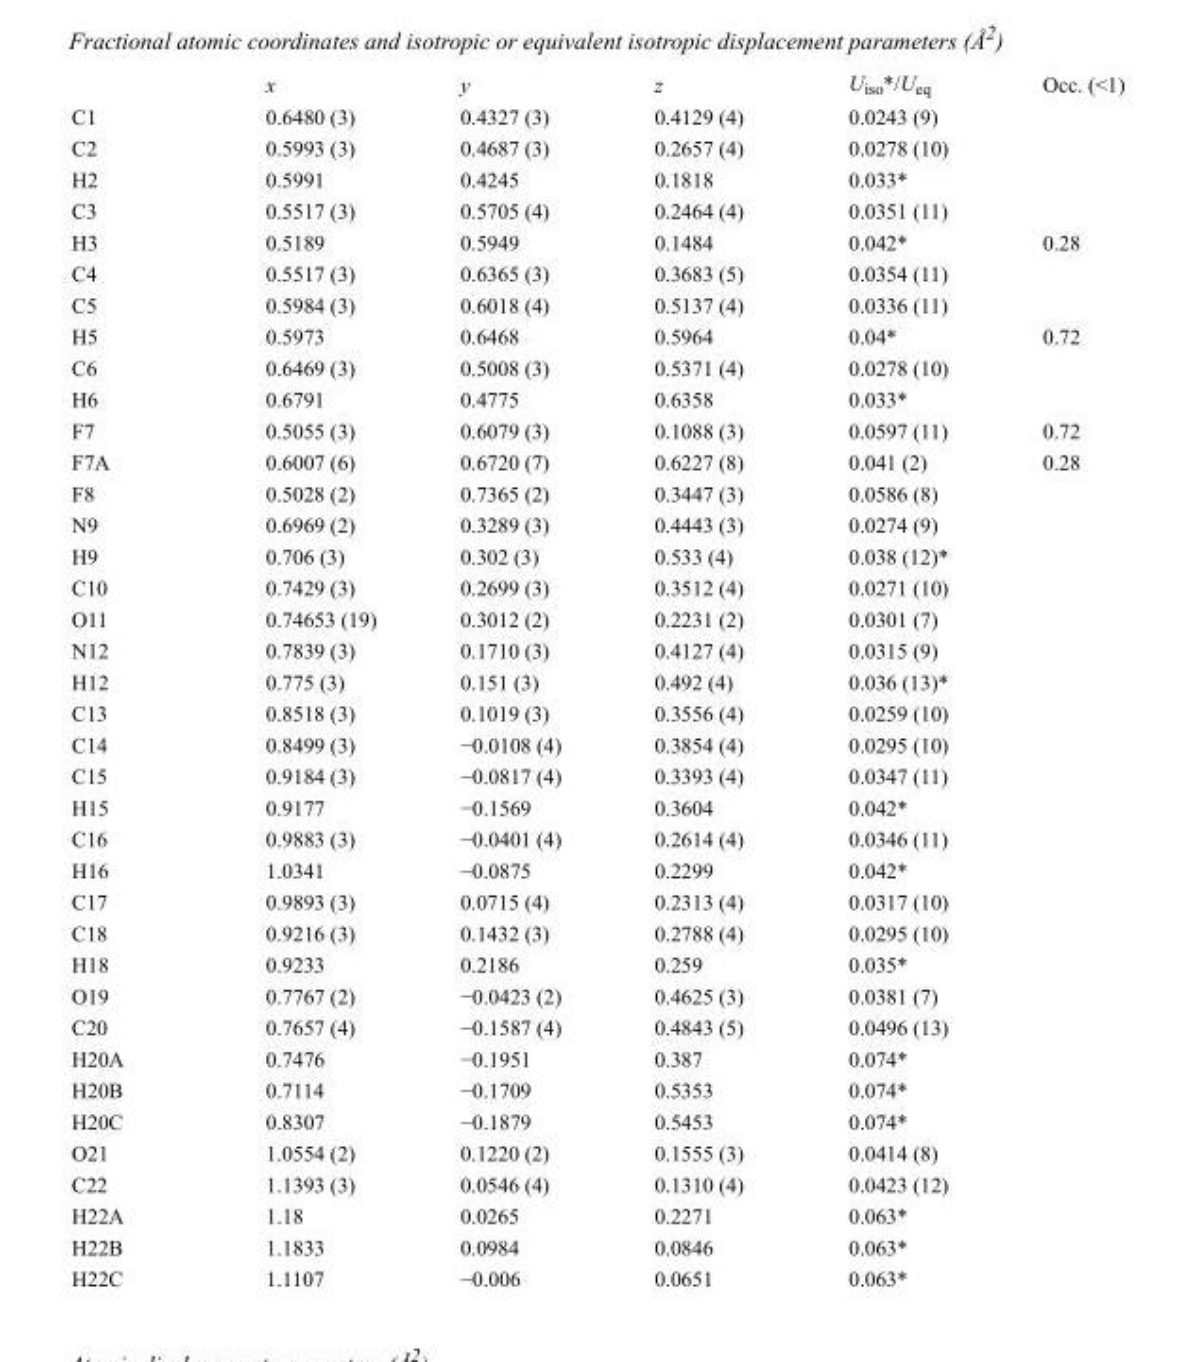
<table><thead><tr><td></td><td>x</td><td>y</td><td>z</td><td>U<sub>iso</sub>*/U<sub>eq</sub></td><td>Occ. (&lt;1)</td></tr></thead><tbody><tr><td>C1</td><td>0.6480 (3)</td><td>0.4327 (3)</td><td>0.4129 (4)</td><td>0.0243 (9)</td><td></td></tr><tr><td>C2</td><td>0.5993 (3)</td><td>0.4687 (3)</td><td>0.2657 (4)</td><td>0.0278 (10)</td><td></td></tr><tr><td>H2</td><td>0.5991</td><td>0.4245</td><td>0.1818</td><td>0.033*</td><td></td></tr><tr><td>C3</td><td>0.5517 (3)</td><td>0.5705 (4)</td><td>0.2464 (4)</td><td>0.0351 (11)</td><td></td></tr><tr><td>H3</td><td>0.5189</td><td>0.5949</td><td>0.1484</td><td>0.042*</td><td>0.28</td></tr><tr><td>C4</td><td>0.5517 (3)</td><td>0.6365 (3)</td><td>0.3683 (5)</td><td>0.0354 (11)</td><td></td></tr><tr><td>C5</td><td>0.5984 (3)</td><td>0.6018 (4)</td><td>0.5137 (4)</td><td>0.0336 (11)</td><td></td></tr><tr><td>H5</td><td>0.5973</td><td>0.6468</td><td>0.5964</td><td>0.04*</td><td>0.72</td></tr><tr><td>C6</td><td>0.6469 (3)</td><td>0.5008 (3)</td><td>0.5371 (4)</td><td>0.0278 (10)</td><td></td></tr><tr><td>H6</td><td>0.6791</td><td>0.4775</td><td>0.6358</td><td>0.033*</td><td></td></tr><tr><td>F7</td><td>0.5055 (3)</td><td>0.6079 (3)</td><td>0.1088 (3)</td><td>0.0597 (11)</td><td>0.72</td></tr><tr><td>F7A</td><td>0.6007 (6)</td><td>0.6720 (7)</td><td>0.6227 (8)</td><td>0.041 (2)</td><td>0.28</td></tr><tr><td>F8</td><td>0.5028 (2)</td><td>0.7365 (2)</td><td>0.3447 (3)</td><td>0.0586 (8)</td><td></td></tr><tr><td>N9</td><td>0.6969 (2)</td><td>0.3289 (3)</td><td>0.4443 (3)</td><td>0.0274 (9)</td><td></td></tr><tr><td>H9</td><td>0.706 (3)</td><td>0.302 (3)</td><td>0.533 (4)</td><td>0.038 (12)*</td><td></td></tr><tr><td>C10</td><td>0.7429 (3)</td><td>0.2699 (3)</td><td>0.3512 (4)</td><td>0.0271 (10)</td><td></td></tr><tr><td>O11</td><td>0.74653 (19)</td><td>0.3012 (2)</td><td>0.2231 (2)</td><td>0.0301 (7)</td><td></td></tr><tr><td>N12</td><td>0.7839 (3)</td><td>0.1710 (3)</td><td>0.4127 (4)</td><td>0.0315 (9)</td><td></td></tr><tr><td>H12</td><td>0.775 (3)</td><td>0.151 (3)</td><td>0.492 (4)</td><td>0.036 (13)*</td><td></td></tr><tr><td>C13</td><td>0.8518 (3)</td><td>0.1019 (3)</td><td>0.3556 (4)</td><td>0.0259 (10)</td><td></td></tr><tr><td>C14</td><td>0.8499 (3)</td><td>−0.0108 (4)</td><td>0.3854 (4)</td><td>0.0295 (10)</td><td></td></tr><tr><td>C15</td><td>0.9184 (3)</td><td>−0.0817 (4)</td><td>0.3393 (4)</td><td>0.0347 (11)</td><td></td></tr><tr><td>H15</td><td>0.9177</td><td>−0.1569</td><td>0.3604</td><td>0.042*</td><td></td></tr><tr><td>C16</td><td>0.9883 (3)</td><td>−0.0401 (4)</td><td>0.2614 (4)</td><td>0.0346 (11)</td><td></td></tr><tr><td>H16</td><td>1.0341</td><td>−0.0875</td><td>0.2299</td><td>0.042*</td><td></td></tr><tr><td>C17</td><td>0.9893 (3)</td><td>0.0715 (4)</td><td>0.2313 (4)</td><td>0.0317 (10)</td><td></td></tr><tr><td>C18</td><td>0.9216 (3)</td><td>0.1432 (3)</td><td>0.2788 (4)</td><td>0.0295 (10)</td><td></td></tr><tr><td>H18</td><td>0.9233</td><td>0.2186</td><td>0.259</td><td>0.035*</td><td></td></tr><tr><td>O19</td><td>0.7767 (2)</td><td>−0.0423 (2)</td><td>0.4625 (3)</td><td>0.0381 (7)</td><td></td></tr><tr><td>C20</td><td>0.7657 (4)</td><td>−0.1587 (4)</td><td>0.4843 (5)</td><td>0.0496 (13)</td><td></td></tr><tr><td>H20A</td><td>0.7476</td><td>−0.1951</td><td>0.387</td><td>0.074*</td><td></td></tr><tr><td>H20B</td><td>0.7114</td><td>−0.1709</td><td>0.5353</td><td>0.074*</td><td></td></tr><tr><td>H20C</td><td>0.8307</td><td>−0.1879</td><td>0.5453</td><td>0.074*</td><td></td></tr><tr><td>O21</td><td>1.0554 (2)</td><td>0.1220 (2)</td><td>0.1555 (3)</td><td>0.0414 (8)</td><td></td></tr><tr><td>C22</td><td>1.1393 (3)</td><td>0.0546 (4)</td><td>0.1310 (4)</td><td>0.0423 (12)</td><td></td></tr><tr><td>H22A</td><td>1.18</td><td>0.0265</td><td>0.2271</td><td>0.063*</td><td></td></tr><tr><td>H22B</td><td>1.1833</td><td>0.0984</td><td>0.0846</td><td>0.063*</td><td></td></tr><tr><td>H22C</td><td>1.1107</td><td>−0.006</td><td>0.0651</td><td>0.063*</td><td></td></tr></tbody></table>